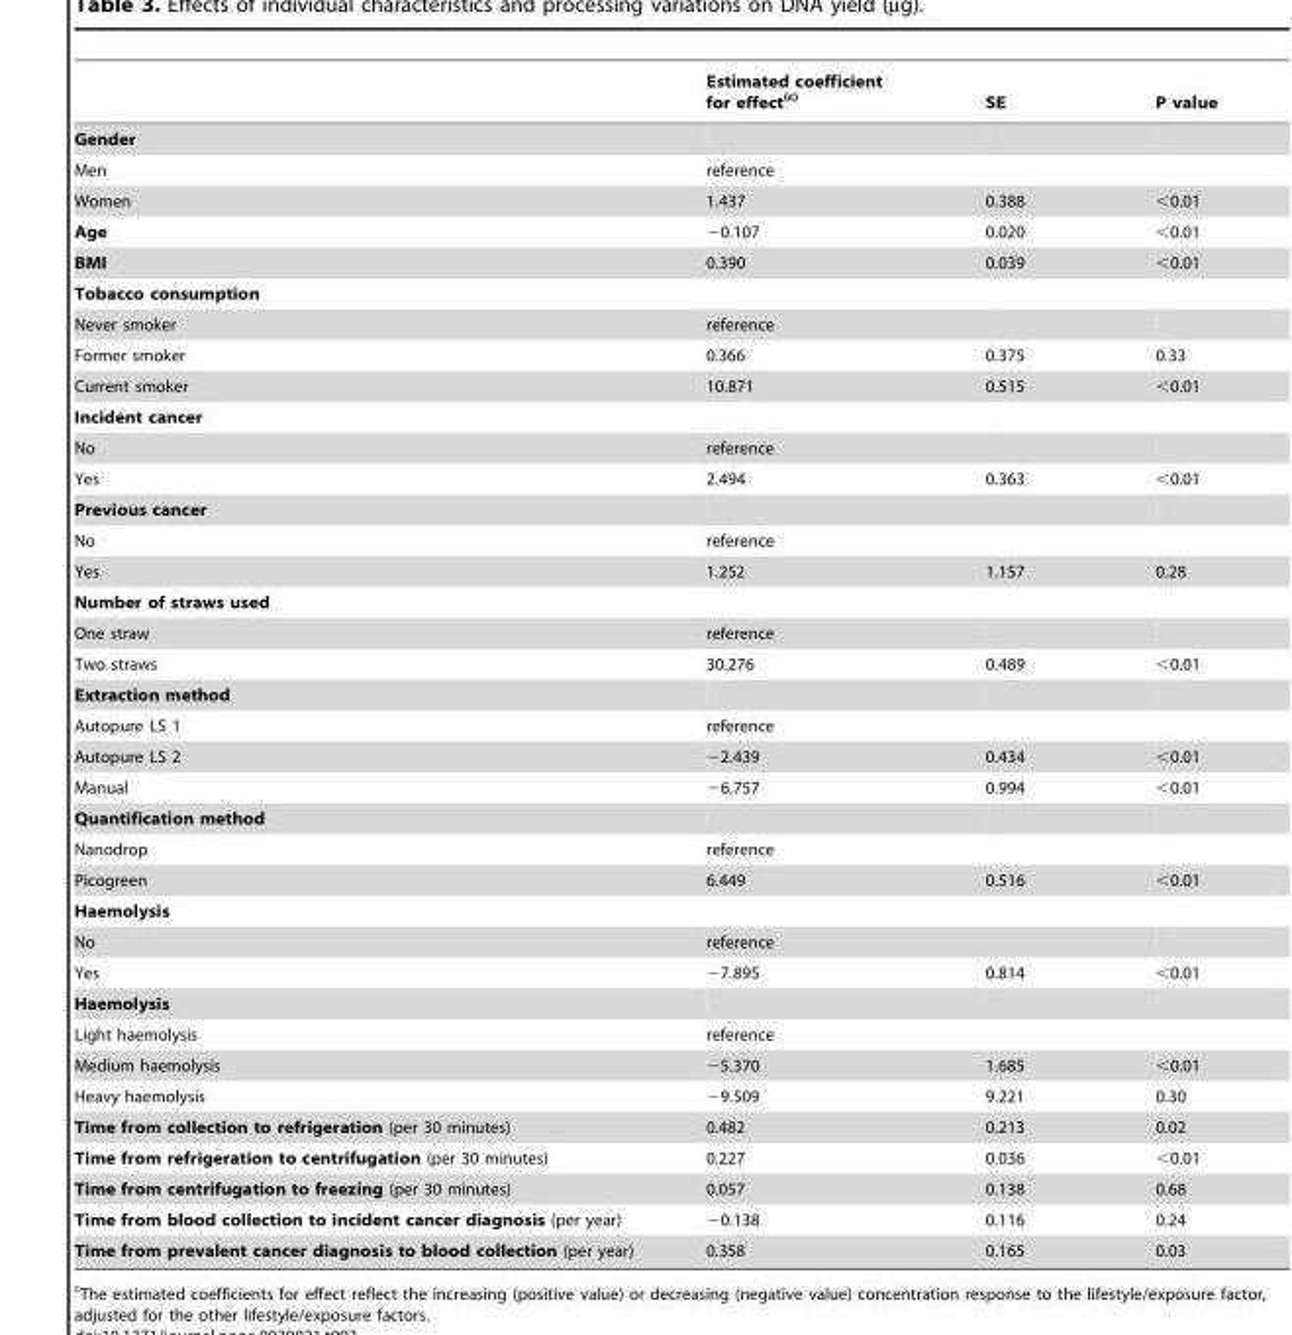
<table><thead><tr><td></td><td>Estimated coefficient for effect<sup>(c)</sup></td><td>SE</td><td>P value</td></tr></thead><tbody><tr><td colspan="4">Gender</td></tr><tr><td>Men</td><td>reference</td><td></td><td></td></tr><tr><td>Women</td><td>1.437</td><td>0.388</td><td>&lt;0.01</td></tr><tr><td>Age</td><td>−0.107</td><td>0.020</td><td>&lt;0.01</td></tr><tr><td>BMI</td><td>0.390</td><td>0.039</td><td>&lt;0.01</td></tr><tr><td colspan="4">Tobacco consumption</td></tr><tr><td>Never smoker</td><td>reference</td><td></td><td></td></tr><tr><td>Former smoker</td><td>0.366</td><td>0.375</td><td>0.33</td></tr><tr><td>Current smoker</td><td>10.871</td><td>0.515</td><td>&lt;0.01</td></tr><tr><td colspan="4">Incident cancer</td></tr><tr><td>No</td><td>reference</td><td></td><td></td></tr><tr><td>Yes</td><td>2.494</td><td>0.363</td><td>&lt;0.01</td></tr><tr><td colspan="4">Previous cancer</td></tr><tr><td>No</td><td>reference</td><td></td><td></td></tr><tr><td>Yes</td><td>1.252</td><td>1.157</td><td>0.28</td></tr><tr><td colspan="4">Number of straws used</td></tr><tr><td>One straw</td><td>reference</td><td></td><td></td></tr><tr><td>Two straws</td><td>30.276</td><td>0.489</td><td>&lt;0.01</td></tr><tr><td colspan="4">Extraction method</td></tr><tr><td>Autopure LS 1</td><td>reference</td><td></td><td></td></tr><tr><td>Autopure LS 2</td><td>−2.439</td><td>0.434</td><td>&lt;0.01</td></tr><tr><td>Manual</td><td>−6.757</td><td>0.994</td><td>&lt;0.01</td></tr><tr><td colspan="4">Quantification method</td></tr><tr><td>Nanodrop</td><td>reference</td><td></td><td></td></tr><tr><td>Picogreen</td><td>6.449</td><td>0.516</td><td>&lt;0.01</td></tr><tr><td colspan="4">Haemolysis</td></tr><tr><td>No</td><td>reference</td><td></td><td></td></tr><tr><td>Yes</td><td>−7.895</td><td>0.814</td><td>&lt;0.01</td></tr><tr><td colspan="4">Haemolysis</td></tr><tr><td>Light haemolysis</td><td>reference</td><td></td><td></td></tr><tr><td>Medium haemolysis</td><td>−5.370</td><td>1.685</td><td>&lt;0.01</td></tr><tr><td>Heavy haemolysis</td><td>−9.509</td><td>9.221</td><td>0.30</td></tr><tr><td>Time from collection to refrigeration (per 30 minutes)</td><td>0.482</td><td>0.213</td><td>0.02</td></tr><tr><td>Time from refrigeration to centrifugation (per 30 minutes)</td><td>0.227</td><td>0.036</td><td>&lt;0.01</td></tr><tr><td>Time from centrifugation to freezing (per 30 minutes)</td><td>0.057</td><td>0.138</td><td>0.68</td></tr><tr><td>Time from blood collection to incident cancer diagnosis (per year)</td><td>−0.138</td><td>0.116</td><td>0.24</td></tr><tr><td>Time from prevalent cancer diagnosis to blood collection (per year)</td><td>0.358</td><td>0.165</td><td>0.03</td></tr></tbody></table>